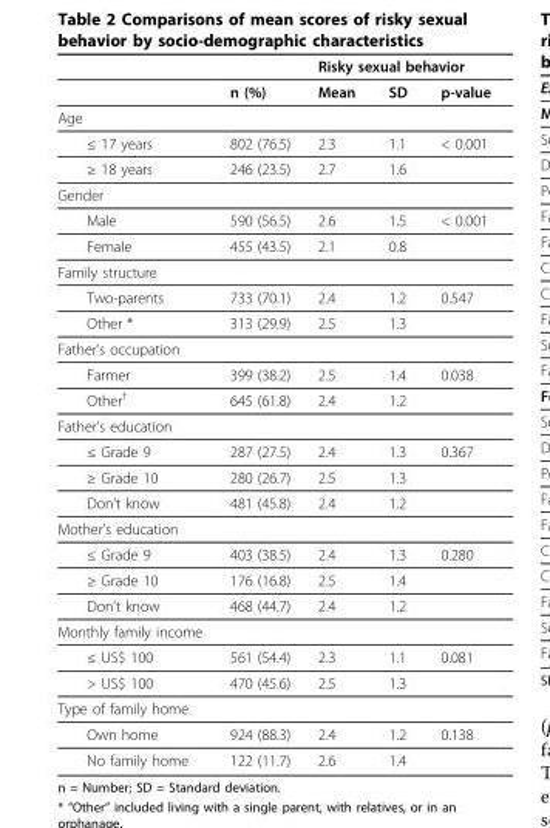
<table><thead><tr><td rowspan="2"></td><td rowspan="2">n (%)</td><td colspan="3">Risky sexual behavior</td></tr><tr><td>Mean</td><td>SD</td><td>p-value</td></tr></thead><tbody><tr><td colspan="5">Age</td></tr><tr><td>≤ 17 years</td><td>802 (76.5)</td><td>2.3</td><td>1.1</td><td>&lt; 0.001</td></tr><tr><td>≥ 18 years</td><td>246 (23.5)</td><td>2.7</td><td>1.6</td><td></td></tr><tr><td colspan="5">Gender</td></tr><tr><td>Male</td><td>590 (56.5)</td><td>2.6</td><td>1.5</td><td>&lt; 0.001</td></tr><tr><td>Female</td><td>455 (43.5)</td><td>2.1</td><td>0.8</td><td></td></tr><tr><td colspan="5">Family structure</td></tr><tr><td>Two-parents</td><td>733 (70.1)</td><td>2.4</td><td>1.2</td><td>0.547</td></tr><tr><td>Other *</td><td>313 (29.9)</td><td>2.5</td><td>1.3</td><td></td></tr><tr><td colspan="5">Father’s occupation</td></tr><tr><td>Farmer</td><td>399 (38.2)</td><td>2.5</td><td>1.4</td><td>0.038</td></tr><tr><td>Other<sup>†</sup></td><td>645 (61.8)</td><td>2.4</td><td>1.2</td><td></td></tr><tr><td colspan="5">Father’s education</td></tr><tr><td>≤ Grade 9</td><td>287 (27.5)</td><td>2.4</td><td>1.3</td><td>0.367</td></tr><tr><td>≥ Grade 10</td><td>280 (26.7)</td><td>2.5</td><td>1.3</td><td></td></tr><tr><td>Don’t know</td><td>481 (45.8)</td><td>2.4</td><td>1.2</td><td></td></tr><tr><td colspan="5">Mother’s education</td></tr><tr><td>≤ Grade 9</td><td>403 (38.5)</td><td>2.4</td><td>1.3</td><td>0.280</td></tr><tr><td>≥ Grade 10</td><td>176 (16.8)</td><td>2.5</td><td>1.4</td><td></td></tr><tr><td>Don’t know</td><td>468 (44.7)</td><td>2.4</td><td>1.2</td><td></td></tr><tr><td colspan="5">Monthly family income</td></tr><tr><td>≤ US$ 100</td><td>561 (54.4)</td><td>2.3</td><td>1.1</td><td>0.081</td></tr><tr><td>&gt; US$ 100</td><td>470 (45.6)</td><td>2.5</td><td>1.3</td><td></td></tr><tr><td colspan="5">Type of family home</td></tr><tr><td>Own home</td><td>924 (88.3)</td><td>2.4</td><td>1.2</td><td>0.138</td></tr><tr><td>No family home</td><td>122 (11.7)</td><td>2.6</td><td>1.4</td><td></td></tr></tbody></table>